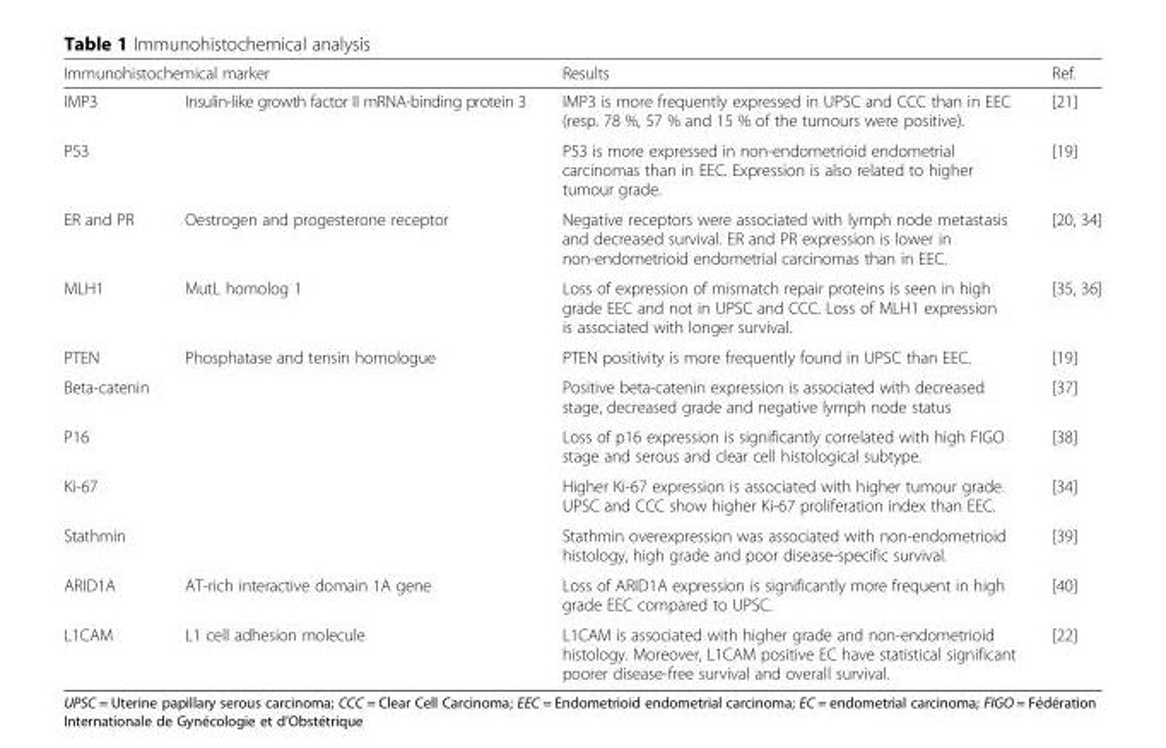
<table><thead><tr><td colspan="2">Immunohistochemical marker</td><td rowspan="2">Results IMP3 is more frequently expressed in UPSC and CCC than in EEC (resp. 78 %, 57 % and 15 % of the tumours were positive).</td><td rowspan="2">Ref. [21]</td></tr><tr><td>IMP3</td><td>Insulin-like growth factor II mRNA-binding protein 3</td></tr></thead><tbody><tr><td>P53</td><td></td><td>P53 is more expressed in non-endometrioid endometrial carcinomas than in EEC. Expression is also related to higher tumour grade.</td><td>[19]</td></tr><tr><td>ER and PR</td><td>Oestrogen and progesterone receptor</td><td>Negative receptors were associated with lymph node metastasis and decreased survival. ER and PR expression is lower in non-endometrioid endometrial carcinomas than in EEC.</td><td>[20, 34]</td></tr><tr><td>MLH1</td><td>MutL homolog 1</td><td>Loss of expression of mismatch repair proteins is seen in high grade EEC and not in UPSC and CCC. Loss of MLH1 expression is associated with longer survival.</td><td>[35, 36]</td></tr><tr><td>PTEN</td><td>Phosphatase and tensin homologue</td><td>PTEN positivity is more frequently found in UPSC than EEC.</td><td>[19]</td></tr><tr><td>Beta-catenin</td><td></td><td>Positive beta-catenin expression is associated with decreased stage, decreased grade and negative lymph node status</td><td>[37]</td></tr><tr><td>P16</td><td></td><td>Loss of p16 expression is significantly correlated with high FIGO stage and serous and clear cell histological subtype.</td><td>[38]</td></tr><tr><td>Ki-67</td><td></td><td>Higher Ki-67 expression is associated with higher tumour grade. UPSC and CCC show higher Ki-67 proliferation index than EEC.</td><td>[34]</td></tr><tr><td>Stathmin</td><td></td><td>Stathmin overexpression was associated with non-endometrioid histology, high grade and poor disease-specific survival.</td><td>[39]</td></tr><tr><td>ARID1A</td><td>AT-rich interactive domain 1A gene</td><td>Loss of ARID1A expression is significantly more frequent in high grade EEC compared to UPSC.</td><td>[40]</td></tr><tr><td>L1CAM</td><td>L1 cell adhesion molecule</td><td>L1CAM is associated with higher grade and non-endometrioid histology. Moreover, L1CAM positive EC have statistical significant poorer disease-free survival and overall survival.</td><td>[22]</td></tr></tbody></table>